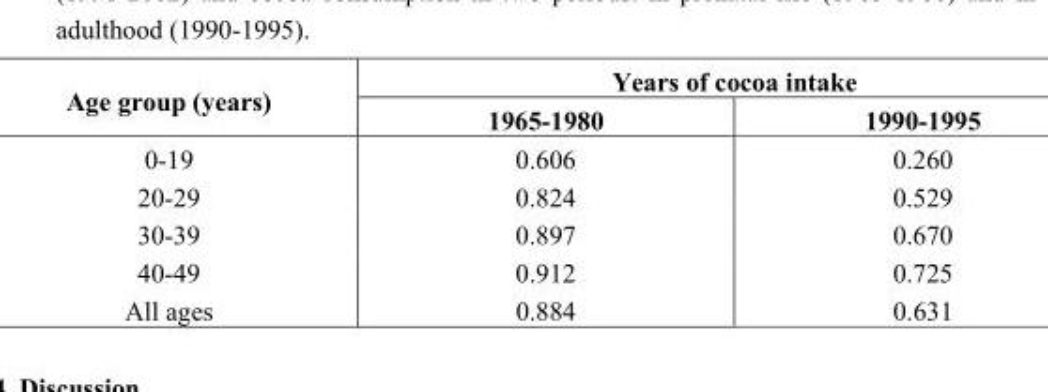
<table><thead><tr><td rowspan="2">Age group (years)</td><td colspan="2">Years of cocoa intake</td></tr><tr><td>1965-1980</td><td>1990-1995</td></tr></thead><tbody><tr><td>0-19</td><td>0.606</td><td>0.260</td></tr><tr><td>20-29</td><td>0.824</td><td>0.529</td></tr><tr><td>30-39</td><td>0.897</td><td>0.670</td></tr><tr><td>40-49</td><td>0.912</td><td>0.725</td></tr><tr><td>All ages</td><td>0.884</td><td>0.631</td></tr></tbody></table>